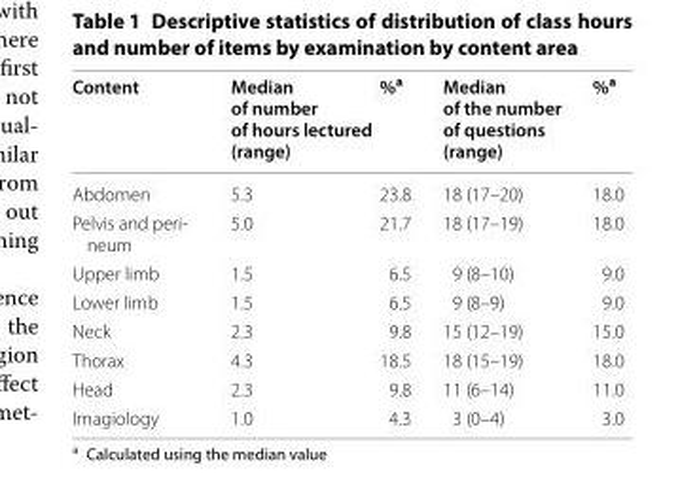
<table><thead><tr><td>Content</td><td>Median of number of hours lectured (range)</td><td>%<sup>a</sup></td><td>Median of the number of questions (range)</td><td>%<sup>a</sup></td></tr></thead><tbody><tr><td>Abdomen</td><td>5.3</td><td>23.8</td><td>18 (17–20)</td><td>18.0</td></tr><tr><td>Pelvis and peri‑ neum</td><td>5.0</td><td>21.7</td><td>18 (17–19)</td><td>18.0</td></tr><tr><td>Upper limb</td><td>1.5</td><td>6.5</td><td>9 (8–10)</td><td>9.0</td></tr><tr><td>Lower limb</td><td>1.5</td><td>6.5</td><td>9 (8–9)</td><td>9.0</td></tr><tr><td>Neck</td><td>2.3</td><td>9.8</td><td>15 (12–19)</td><td>15.0</td></tr><tr><td>Thorax</td><td>4.3</td><td>18.5</td><td>18 (15–19)</td><td>18.0</td></tr><tr><td>Head</td><td>2.3</td><td>9.8</td><td>11 (6–14)</td><td>11.0</td></tr><tr><td>Imagiology</td><td>1.0</td><td>4.3</td><td>3 (0–4)</td><td>3.0</td></tr></tbody></table>